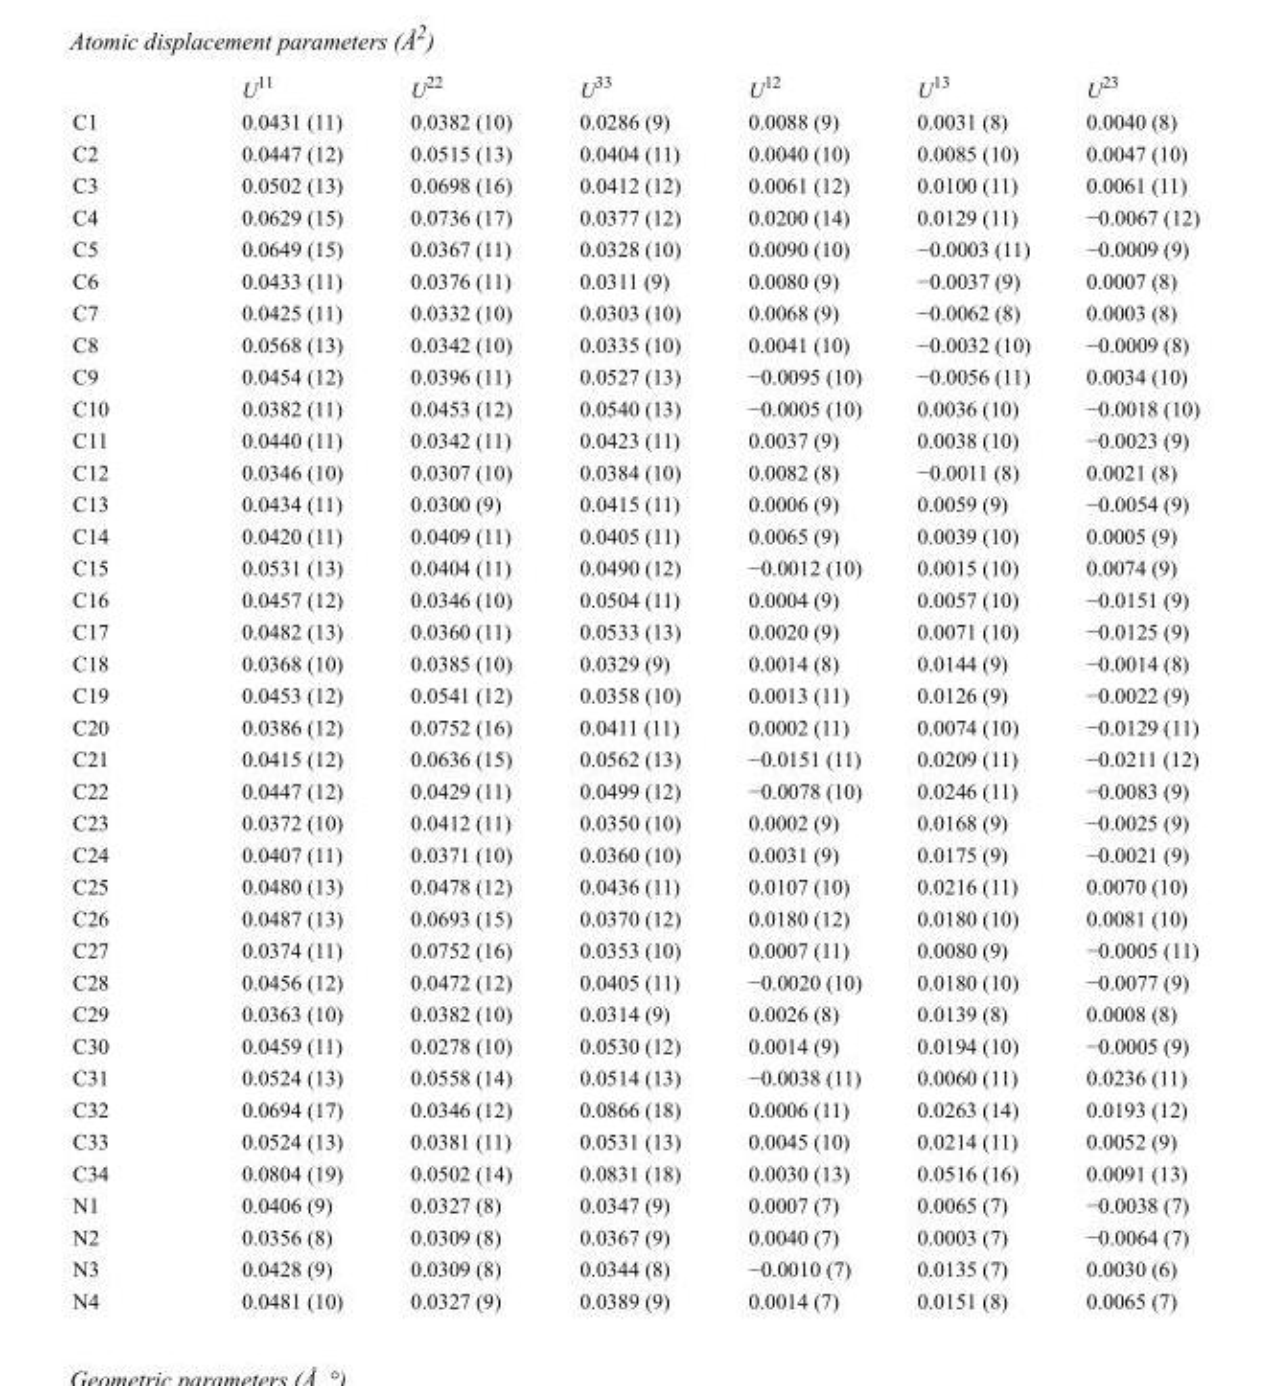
<table><thead><tr><td></td><td>U<sup>11</sup></td><td>U<sup>22</sup></td><td>U<sup>33</sup></td><td>U<sup>12</sup></td><td>U<sup>13</sup></td><td>U<sup>23</sup></td></tr></thead><tbody><tr><td>C1</td><td>0.0431 (11)</td><td>0.0382 (10)</td><td>0.0286 (9)</td><td>0.0088 (9)</td><td>0.0031 (8)</td><td>0.0040 (8)</td></tr><tr><td>C2</td><td>0.0447 (12)</td><td>0.0515 (13)</td><td>0.0404 (11)</td><td>0.0040 (10)</td><td>0.0085 (10)</td><td>0.0047 (10)</td></tr><tr><td>C3</td><td>0.0502 (13)</td><td>0.0698 (16)</td><td>0.0412 (12)</td><td>0.0061 (12)</td><td>0.0100 (11)</td><td>0.0061 (11)</td></tr><tr><td>C4</td><td>0.0629 (15)</td><td>0.0736 (17)</td><td>0.0377 (12)</td><td>0.0200 (14)</td><td>0.0129 (11)</td><td>−0.0067 (12)</td></tr><tr><td>C5</td><td>0.0649 (15)</td><td>0.0367 (11)</td><td>0.0328 (10)</td><td>0.0090 (10)</td><td>−0.0003 (11)</td><td>−0.0009 (9)</td></tr><tr><td>C6</td><td>0.0433 (11)</td><td>0.0376 (11)</td><td>0.0311 (9)</td><td>0.0080 (9)</td><td>−0.0037 (9)</td><td>0.0007 (8)</td></tr><tr><td>C7</td><td>0.0425 (11)</td><td>0.0332 (10)</td><td>0.0303 (10)</td><td>0.0068 (9)</td><td>−0.0062 (8)</td><td>0.0003 (8)</td></tr><tr><td>C8</td><td>0.0568 (13)</td><td>0.0342 (10)</td><td>0.0335 (10)</td><td>0.0041 (10)</td><td>−0.0032 (10)</td><td>−0.0009 (8)</td></tr><tr><td>C9</td><td>0.0454 (12)</td><td>0.0396 (11)</td><td>0.0527 (13)</td><td>−0.0095 (10)</td><td>−0.0056 (11)</td><td>0.0034 (10)</td></tr><tr><td>C10</td><td>0.0382 (11)</td><td>0.0453 (12)</td><td>0.0540 (13)</td><td>−0.0005 (10)</td><td>0.0036 (10)</td><td>−0.0018 (10)</td></tr><tr><td>C11</td><td>0.0440 (11)</td><td>0.0342 (11)</td><td>0.0423 (11)</td><td>0.0037 (9)</td><td>0.0038 (10)</td><td>−0.0023 (9)</td></tr><tr><td>C12</td><td>0.0346 (10)</td><td>0.0307 (10)</td><td>0.0384 (10)</td><td>0.0082 (8)</td><td>−0.0011 (8)</td><td>0.0021 (8)</td></tr><tr><td>C13</td><td>0.0434 (11)</td><td>0.0300 (9)</td><td>0.0415 (11)</td><td>0.0006 (9)</td><td>0.0059 (9)</td><td>−0.0054 (9)</td></tr><tr><td>C14</td><td>0.0420 (11)</td><td>0.0409 (11)</td><td>0.0405 (11)</td><td>0.0065 (9)</td><td>0.0039 (10)</td><td>0.0005 (9)</td></tr><tr><td>C15</td><td>0.0531 (13)</td><td>0.0404 (11)</td><td>0.0490 (12)</td><td>−0.0012 (10)</td><td>0.0015 (10)</td><td>0.0074 (9)</td></tr><tr><td>C16</td><td>0.0457 (12)</td><td>0.0346 (10)</td><td>0.0504 (11)</td><td>0.0004 (9)</td><td>0.0057 (10)</td><td>−0.0151 (9)</td></tr><tr><td>C17</td><td>0.0482 (13)</td><td>0.0360 (11)</td><td>0.0533 (13)</td><td>0.0020 (9)</td><td>0.0071 (10)</td><td>−0.0125 (9)</td></tr><tr><td>C18</td><td>0.0368 (10)</td><td>0.0385 (10)</td><td>0.0329 (9)</td><td>0.0014 (8)</td><td>0.0144 (9)</td><td>−0.0014 (8)</td></tr><tr><td>C19</td><td>0.0453 (12)</td><td>0.0541 (12)</td><td>0.0358 (10)</td><td>0.0013 (11)</td><td>0.0126 (9)</td><td>−0.0022 (9)</td></tr><tr><td>C20</td><td>0.0386 (12)</td><td>0.0752 (16)</td><td>0.0411 (11)</td><td>0.0002 (11)</td><td>0.0074 (10)</td><td>−0.0129 (11)</td></tr><tr><td>C21</td><td>0.0415 (12)</td><td>0.0636 (15)</td><td>0.0562 (13)</td><td>−0.0151 (11)</td><td>0.0209 (11)</td><td>−0.0211 (12)</td></tr><tr><td>C22</td><td>0.0447 (12)</td><td>0.0429 (11)</td><td>0.0499 (12)</td><td>−0.0078 (10)</td><td>0.0246 (11)</td><td>−0.0083 (9)</td></tr><tr><td>C23</td><td>0.0372 (10)</td><td>0.0412 (11)</td><td>0.0350 (10)</td><td>0.0002 (9)</td><td>0.0168 (9)</td><td>−0.0025 (9)</td></tr><tr><td>C24</td><td>0.0407 (11)</td><td>0.0371 (10)</td><td>0.0360 (10)</td><td>0.0031 (9)</td><td>0.0175 (9)</td><td>−0.0021 (9)</td></tr><tr><td>C25</td><td>0.0480 (13)</td><td>0.0478 (12)</td><td>0.0436 (11)</td><td>0.0107 (10)</td><td>0.0216 (11)</td><td>0.0070 (10)</td></tr><tr><td>C26</td><td>0.0487 (13)</td><td>0.0693 (15)</td><td>0.0370 (12)</td><td>0.0180 (12)</td><td>0.0180 (10)</td><td>0.0081 (10)</td></tr><tr><td>C27</td><td>0.0374 (11)</td><td>0.0752 (16)</td><td>0.0353 (10)</td><td>0.0007 (11)</td><td>0.0080 (9)</td><td>−0.0005 (11)</td></tr><tr><td>C28</td><td>0.0456 (12)</td><td>0.0472 (12)</td><td>0.0405 (11)</td><td>−0.0020 (10)</td><td>0.0180 (10)</td><td>−0.0077 (9)</td></tr><tr><td>C29</td><td>0.0363 (10)</td><td>0.0382 (10)</td><td>0.0314 (9)</td><td>0.0026 (8)</td><td>0.0139 (8)</td><td>0.0008 (8)</td></tr><tr><td>C30</td><td>0.0459 (11)</td><td>0.0278 (10)</td><td>0.0530 (12)</td><td>0.0014 (9)</td><td>0.0194 (10)</td><td>−0.0005 (9)</td></tr><tr><td>C31</td><td>0.0524 (13)</td><td>0.0558 (14)</td><td>0.0514 (13)</td><td>−0.0038 (11)</td><td>0.0060 (11)</td><td>0.0236 (11)</td></tr><tr><td>C32</td><td>0.0694 (17)</td><td>0.0346 (12)</td><td>0.0866 (18)</td><td>0.0006 (11)</td><td>0.0263 (14)</td><td>0.0193 (12)</td></tr><tr><td>C33</td><td>0.0524 (13)</td><td>0.0381 (11)</td><td>0.0531 (13)</td><td>0.0045 (10)</td><td>0.0214 (11)</td><td>0.0052 (9)</td></tr><tr><td>C34</td><td>0.0804 (19)</td><td>0.0502 (14)</td><td>0.0831 (18)</td><td>0.0030 (13)</td><td>0.0516 (16)</td><td>0.0091 (13)</td></tr><tr><td>N1</td><td>0.0406 (9)</td><td>0.0327 (8)</td><td>0.0347 (9)</td><td>0.0007 (7)</td><td>0.0065 (7)</td><td>−0.0038 (7)</td></tr><tr><td>N2</td><td>0.0356 (8)</td><td>0.0309 (8)</td><td>0.0367 (9)</td><td>0.0040 (7)</td><td>0.0003 (7)</td><td>−0.0064 (7)</td></tr><tr><td>N3</td><td>0.0428 (9)</td><td>0.0309 (8)</td><td>0.0344 (8)</td><td>−0.0010 (7)</td><td>0.0135 (7)</td><td>0.0030 (6)</td></tr><tr><td>N4</td><td>0.0481 (10)</td><td>0.0327 (9)</td><td>0.0389 (9)</td><td>0.0014 (7)</td><td>0.0151 (8)</td><td>0.0065 (7)</td></tr></tbody></table>